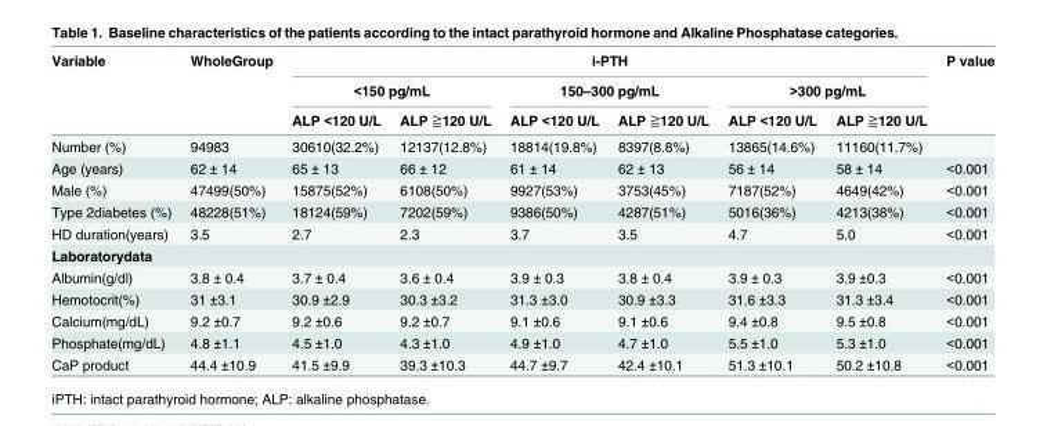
<table><thead><tr><td rowspan="3">Variable</td><td rowspan="3">WholeGroup</td><td colspan="6">i-PTH</td><td rowspan="3">P value</td></tr><tr><td colspan="2">&lt;150 pg/mL</td><td colspan="2">150–300 pg/mL</td><td colspan="2">&gt;300 pg/mL</td></tr><tr><td>ALP &lt;120 U/L</td><td>ALP ≧120 U/L</td><td>ALP &lt;120 U/L</td><td>ALP ≧120 U/L</td><td>ALP &lt;120 U/L</td><td>ALP ≧120 U/L</td></tr></thead><tbody><tr><td>Number (%)</td><td>94983</td><td>30610(32.2%)</td><td>12137(12.8%)</td><td>18814(19.8%)</td><td>8397(8.8%)</td><td>13865(14.6%)</td><td>11160(11.7%)</td><td></td></tr><tr><td>Age (years)</td><td>62 ± 14</td><td>65 ± 13</td><td>66 ± 12</td><td>61 ± 14</td><td>62 ± 13</td><td>56 ± 14</td><td>58 ± 14</td><td>&lt;0.001</td></tr><tr><td>Male (%)</td><td>47499(50%)</td><td>15875(52%)</td><td>6108(50%)</td><td>9927(53%)</td><td>3753(45%)</td><td>7187(52%)</td><td>4649(42%)</td><td>&lt;0.001</td></tr><tr><td>Type 2diabetes (%)</td><td>48228(51%)</td><td>18124(59%)</td><td>7202(59%)</td><td>9386(50%)</td><td>4287(51%)</td><td>5016(36%)</td><td>4213(38%)</td><td>&lt;0.001</td></tr><tr><td>HD duration(years)</td><td>3.5</td><td>2.7</td><td>2.3</td><td>3.7</td><td>3.5</td><td>4.7</td><td>5.0</td><td>&lt;0.001</td></tr><tr><td colspan="9">Laboratorydata</td></tr><tr><td>Albumin(g/dl)</td><td>3.8 ± 0.4</td><td>3.7 ± 0.4</td><td>3.6 ± 0.4</td><td>3.9 ± 0.3</td><td>3.8 ± 0.4</td><td>3.9 ± 0.3</td><td>3.9 ±0.3</td><td>&lt;0.001</td></tr><tr><td>Hemotocrit(%)</td><td>31 ±3.1</td><td>30.9 ±2.9</td><td>30.3 ±3.2</td><td>31.3 ±3.0</td><td>30.9 ±3.3</td><td>31.6 ±3.3</td><td>31.3 ±3.4</td><td>&lt;0.001</td></tr><tr><td>Calcium(mg/dL)</td><td>9.2 ±0.7</td><td>9.2 ±0.6</td><td>9.2 ±0.7</td><td>9.1 ±0.6</td><td>9.1 ±0.6</td><td>9.4 ±0.8</td><td>9.5 ±0.8</td><td>&lt;0.001</td></tr><tr><td>Phosphate(mg/dL)</td><td>4.8 ±1.1</td><td>4.5 ±1.0</td><td>4.3 ±1.0</td><td>4.9 ±1.0</td><td>4.7 ±1.0</td><td>5.5 ±1.0</td><td>5.3 ±1.0</td><td>&lt;0.001</td></tr><tr><td>CaP product</td><td>44.4 ±10.9</td><td>41.5 ±9.9</td><td>39.3 ±10.3</td><td>44.7 ±9.7</td><td>42.4 ±10.1</td><td>51.3 ±10.1</td><td>50.2 ±10.8</td><td>&lt;0.001</td></tr></tbody></table>